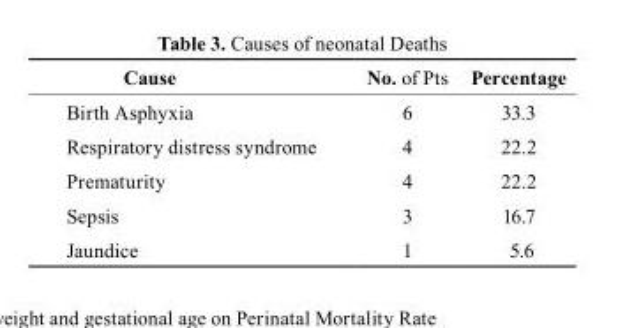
<table><thead><tr><td>cause</td><td>No. of Pts</td><td>Percentage</td></tr></thead><tbody><tr><td>Birth Asphyxia</td><td>6</td><td>33.3</td></tr><tr><td>Respiratory distress syndrome</td><td>4</td><td>22.2</td></tr><tr><td>Prematurity</td><td>4</td><td>22.2</td></tr><tr><td>Sepsis</td><td>3</td><td>16.7</td></tr><tr><td>Jaundice</td><td>1</td><td>5.6</td></tr></tbody></table>